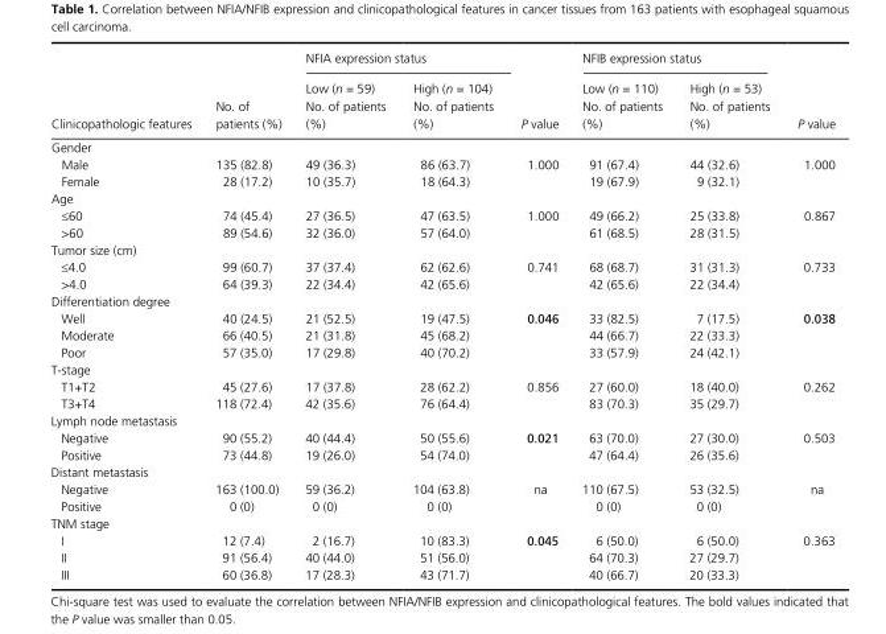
<table><thead><tr><td rowspan="2">Clinicopathologic features</td><td rowspan="2">No. of patients (%)</td><td colspan="2">NFIA expression status</td><td rowspan="2">P value</td><td colspan="2">NFIB expression status</td><td rowspan="2">P value</td></tr><tr><td>Low (n = 59) No. of patients (%)</td><td>High (n = 104) No. of patients (%)</td><td>Low (n = 110) No. of patients (%)</td><td>High (n = 53) No. of patients (%)</td></tr></thead><tbody><tr><td colspan="8">Gender</td></tr><tr><td>Male</td><td>135 (82.8)</td><td>49 (36.3)</td><td>86 (63.7)</td><td rowspan="2">1.000</td><td>91 (67.4)</td><td>44 (32.6)</td><td rowspan="2">1.000</td></tr><tr><td>Female</td><td>28 (17.2)</td><td>10 (35.7)</td><td>18 (64.3)</td><td>19 (67.9)</td><td>9 (32.1)</td></tr><tr><td colspan="8">Age</td></tr><tr><td>≤60</td><td>74 (45.4)</td><td>27 (36.5)</td><td>47 (63.5)</td><td rowspan="2">1.000</td><td>49 (66.2)</td><td>25 (33.8)</td><td rowspan="2">0.867</td></tr><tr><td>&gt;60</td><td>89 (54.6)</td><td>32 (36.0)</td><td>57 (64.0)</td><td>61 (68.5)</td><td>28 (31.5)</td></tr><tr><td colspan="8">Tumor size (cm)</td></tr><tr><td>≤4.0</td><td>99 (60.7)</td><td>37 (37.4)</td><td>62 (62.6)</td><td rowspan="2">0.741</td><td>68 (68.7)</td><td>31 (31.3)</td><td rowspan="2">0.733</td></tr><tr><td>&gt;4.0</td><td>64 (39.3)</td><td>22 (34.4)</td><td>42 (65.6)</td><td>42 (65.6)</td><td>22 (34.4)</td></tr><tr><td colspan="8">Differentiation degree</td></tr><tr><td>Well</td><td>40 (24.5)</td><td>21 (52.5)</td><td>19 (47.5)</td><td rowspan="3">0.046</td><td>33 (82.5)</td><td>7 (17.5)</td><td rowspan="3">0.038</td></tr><tr><td>Moderate</td><td>66 (40.5)</td><td>21 (31.8)</td><td>45 (68.2)</td><td>44 (66.7)</td><td>22 (33.3)</td></tr><tr><td>Poor</td><td>57 (35.0)</td><td>17 (29.8)</td><td>40 (70.2)</td><td>33 (57.9)</td><td>24 (42.1)</td></tr><tr><td colspan="8">T- stage</td></tr><tr><td>T1+T2</td><td>45 (27.6)</td><td>17 (37.8)</td><td>28 (62.2)</td><td rowspan="2">0.856</td><td>27 (60.0)</td><td>18 (40.0)</td><td rowspan="2">0.262</td></tr><tr><td>T3+T4</td><td>118 (72.4)</td><td>42 (35.6)</td><td>76 (64.4)</td><td>83 (70.3)</td><td>35 (29.7)</td></tr><tr><td colspan="8">Lymph node metastasis</td></tr><tr><td>Negative</td><td>90 (55.2)</td><td>40 (44.4)</td><td>50 (55.6)</td><td rowspan="2">0.021</td><td>63 (70.0)</td><td>27 (30.0)</td><td rowspan="2">0.503</td></tr><tr><td>Positive</td><td>73 (44.8)</td><td>19 (26.0)</td><td>54 (74.0)</td><td>47 (64.4)</td><td>26 (35.6)</td></tr><tr><td colspan="8">Distant metastasis</td></tr><tr><td>Negative</td><td>163 (100.0)</td><td>59 (36.2)</td><td>104 (63.8)</td><td rowspan="2">na</td><td>110 (67.5)</td><td>53 (32.5)</td><td rowspan="2">na</td></tr><tr><td>Positive</td><td>0 (0)</td><td>0 (0)</td><td>0 (0)</td><td>0 (0)</td><td>0 (0)</td></tr><tr><td colspan="8">TNM stage</td></tr><tr><td>I</td><td>12 (7.4)</td><td>2 (16.7)</td><td>10 (83.3)</td><td rowspan="3">0.045</td><td>6 (50.0)</td><td>6 (50.0)</td><td rowspan="3">0.363</td></tr><tr><td>II</td><td>91 (56.4)</td><td>40 (44.0)</td><td>51 (56.0)</td><td>64 (70.3)</td><td>27 (29.7)</td></tr><tr><td>III</td><td>60 (36.8)</td><td>17 (28.3)</td><td>43 (71.7)</td><td>40 (66.7)</td><td>20 (33.3)</td></tr></tbody></table>